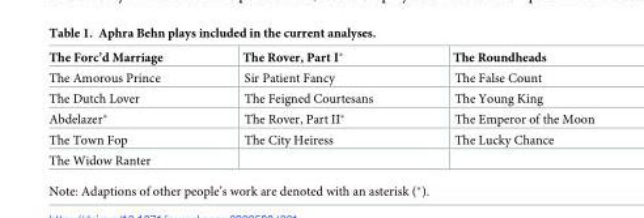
<table><thead><tr><td>The Forc’d Marriage</td><td>The Rover, Part I*</td><td>The Roundheads</td></tr></thead><tbody><tr><td>The Amorous Prince</td><td>Sir Patient Fancy</td><td>The False Count</td></tr><tr><td>The Dutch Lover</td><td>The Feigned Courtesans</td><td>The Young King</td></tr><tr><td>Abdelazer*</td><td>The Rover, Part II*</td><td>The Emperor of the Moon</td></tr><tr><td>The Town Fop</td><td>The City Heiress</td><td>The Lucky Chance</td></tr><tr><td>The Widow Ranter</td><td></td><td></td></tr></tbody></table>